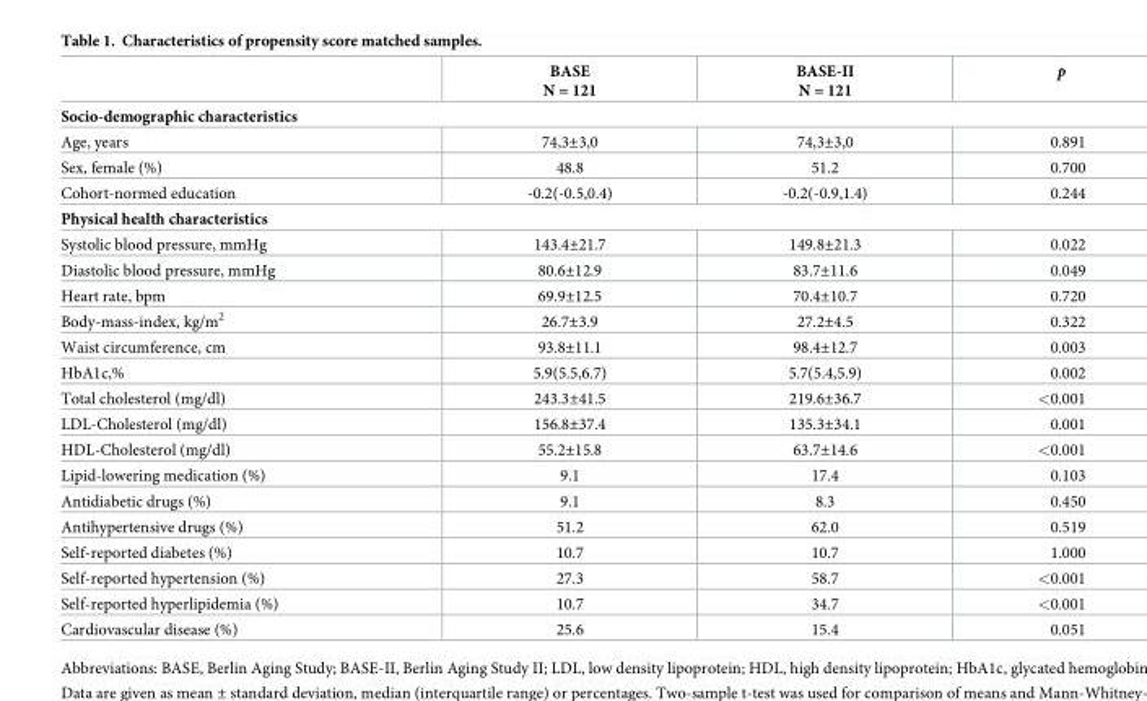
<table><thead><tr><td></td><td>BASE N = 121</td><td>BASE-II N = 121</td><td>p</td></tr></thead><tbody><tr><td colspan="4">Socio-demographic characteristics</td></tr><tr><td>Age, years</td><td>74,3±3,0</td><td>74,3±3,0</td><td>0.891</td></tr><tr><td>Sex, female (%)</td><td>48.8</td><td>51.2</td><td>0.700</td></tr><tr><td>Cohort-normed education</td><td>-0.2(-0.5,0.4)</td><td>-0.2(-0.9,1.4)</td><td>0.244</td></tr><tr><td colspan="4">Physical health characteristics</td></tr><tr><td>Systolic blood pressure, mmHg</td><td>143.4±21.7</td><td>149.8±21.3</td><td>0.022</td></tr><tr><td>Diastolic blood pressure, mmHg</td><td>80.6±12.9</td><td>83.7±11.6</td><td>0.049</td></tr><tr><td>Heart rate, bpm</td><td>69.9±12.5</td><td>70.4±10.7</td><td>0.720</td></tr><tr><td>Body-mass-index, kg/m<sup>2</sup></td><td>26.7±3.9</td><td>27.2±4.5</td><td>0.322</td></tr><tr><td>Waist circumference, cm</td><td>93.8±11.1</td><td>98.4±12.7</td><td>0.003</td></tr><tr><td>HbA1c,%</td><td>5.9(5.5,6.7)</td><td>5.7(5.4,5.9)</td><td>0.002</td></tr><tr><td>Total cholesterol (mg/dl)</td><td>243.3±41.5</td><td>219.6±36.7</td><td>&lt;0.001</td></tr><tr><td>LDL-Cholesterol (mg/dl)</td><td>156.8±37.4</td><td>135.3±34.1</td><td>0.001</td></tr><tr><td>HDL-Cholesterol (mg/dl)</td><td>55.2±15.8</td><td>63.7±14.6</td><td>&lt;0.001</td></tr><tr><td>Lipid-lowering medication (%)</td><td>9.1</td><td>17.4</td><td>0.103</td></tr><tr><td>Antidiabetic drugs (%)</td><td>9.1</td><td>8.3</td><td>0.450</td></tr><tr><td>Antihypertensive drugs (%)</td><td>51.2</td><td>62.0</td><td>0.519</td></tr><tr><td>Self-reported diabetes (%)</td><td>10.7</td><td>10.7</td><td>1.000</td></tr><tr><td>Self-reported hypertension (%)</td><td>27.3</td><td>58.7</td><td>&lt;0.001</td></tr><tr><td>Self-reported hyperlipidemia (%)</td><td>10.7</td><td>34.7</td><td>&lt;0.001</td></tr><tr><td>Cardiovascular disease (%)</td><td>25.6</td><td>15.4</td><td>0.051</td></tr></tbody></table>